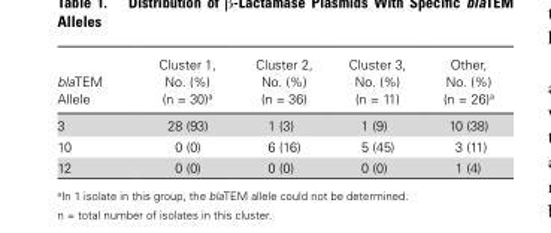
<table><thead><tr><td>blaTEM Allele</td><td>Cluster 1, No. (%) (n = 30)<sup>a</sup></td><td>Cluster 2, No. (%) (n = 36)</td><td>Cluster 3, No. (%) (n = 11)</td><td>Other, No. (%) (n = 26)<sup>a</sup></td></tr></thead><tbody><tr><td>3</td><td>28 (93)</td><td>1 (3)</td><td>1 (9)</td><td>10 (38)</td></tr><tr><td>10</td><td>0 (0)</td><td>6 (16)</td><td>5 (45)</td><td>3 (11)</td></tr><tr><td>12</td><td>0 (0)</td><td>0 (0)</td><td>0 (0)</td><td>1 (4)</td></tr></tbody></table>